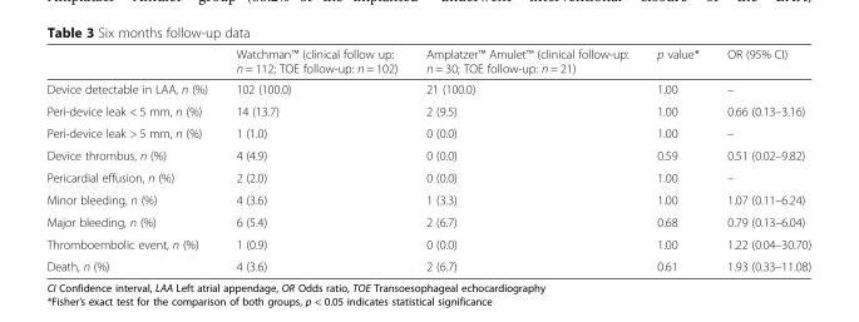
<table><thead><tr><td></td><td>Watchman™ (clinical follow up: n = 112; TOE follow-up: n = 102)</td><td>Amplatzer™ Amulet™ (clinical follow-up: n = 30; TOE follow-up: n = 21)</td><td>p value*</td><td>OR (95% CI)</td></tr></thead><tbody><tr><td>Device detectable in LAA, n (%)</td><td>102 (100.0)</td><td>21 (100.0)</td><td>1.00</td><td>–</td></tr><tr><td>Peri-device leak &lt; 5 mm, n (%)</td><td>14 (13.7)</td><td>2 (9.5)</td><td>1.00</td><td>0.66 (0.13–3.16)</td></tr><tr><td>Peri-device leak &gt; 5 mm, n (%)</td><td>1 (1.0)</td><td>0 (0.0)</td><td>1.00</td><td>–</td></tr><tr><td>Device thrombus, n (%)</td><td>4 (4.9)</td><td>0 (0.0)</td><td>0.59</td><td>0.51 (0.02–9.82)</td></tr><tr><td>Pericardial effusion, n (%)</td><td>2 (2.0)</td><td>0 (0.0)</td><td>1.00</td><td>–</td></tr><tr><td>Minor bleeding, n (%)</td><td>4 (3.6)</td><td>1 (3.3)</td><td>1.00</td><td>1.07 (0.11–6.24)</td></tr><tr><td>Major bleeding, n (%)</td><td>6 (5.4)</td><td>2 (6.7)</td><td>0.68</td><td>0.79 (0.13–6.04)</td></tr><tr><td>Thromboembolic event, n (%)</td><td>1 (0.9)</td><td>0 (0.0)</td><td>1.00</td><td>1.22 (0.04–30.70)</td></tr><tr><td>Death, n (%)</td><td>4 (3.6)</td><td>2 (6.7)</td><td>0.61</td><td>1.93 (0.33–11.08)</td></tr></tbody></table>